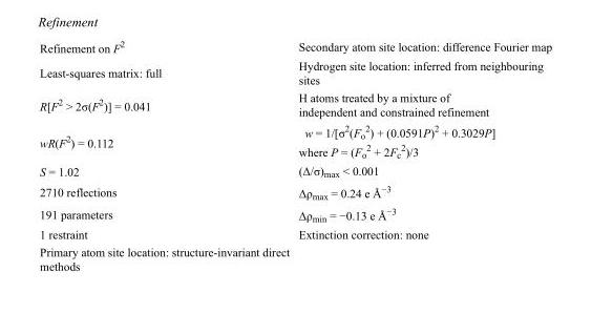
<table><tbody><tr><td>Refinement on F<sup>2</sup></td><td>Secondary atom site location: difference Fourier map</td></tr><tr><td>Least-squares matrix: full</td><td>Hydrogen site location: inferred from neighbouring sites</td></tr><tr><td>R[F<sup>2</sup> &gt; 2σ(F<sup>2</sup>)] = 0.041</td><td>H atoms treated by a mixture of independent and constrained refinement</td></tr><tr><td>wR(F<sup>2</sup>) = 0.112</td><td>w = 1/[σ<sup>2</sup>(F<sub>o</sub> <sup>2</sup>) + (0.0591P)<sup>2</sup> + 0.3029P] where P = (F<sub>o</sub> <sup>2</sup> + 2F<sub>c</sub> <sup>2</sup>)/3</td></tr><tr><td>S = 1.02</td><td>(Δ/σ)<sub>max</sub> &lt; 0.001</td></tr><tr><td>2710 reflections</td><td>Δρ<sub>max</sub> = 0.24 e Å<sup>−3</sup></td></tr><tr><td>191 parameters</td><td>Δρ<sub>min</sub> = −0.13 e Å<sup>−3</sup></td></tr><tr><td>1 restraint</td><td>Extinction correction: none</td></tr><tr><td>Primary atom site location: structure-invariant direct methods</td><td></td></tr></tbody></table>